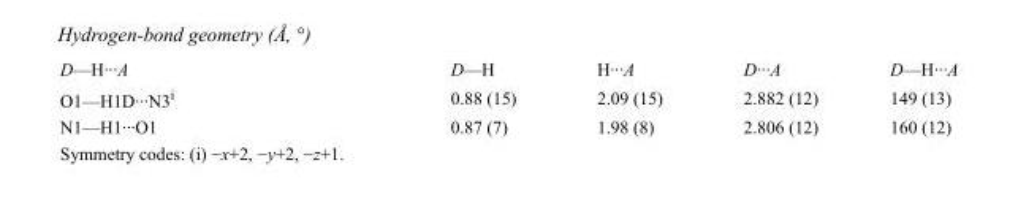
<table><tbody><tr><td>D—H···A</td><td>D—H</td><td>H···A</td><td>D···A</td><td>D—H···A</td></tr><tr><td>O1—H1D···N3<sup>i</sup></td><td>0.88 (15)</td><td>2.09 (15)</td><td>2.882 (12)</td><td>149 (13)</td></tr><tr><td>N1—H1···O1</td><td>0.87 (7)</td><td>1.98 (8)</td><td>2.806 (12)</td><td>160 (12)</td></tr></tbody></table>